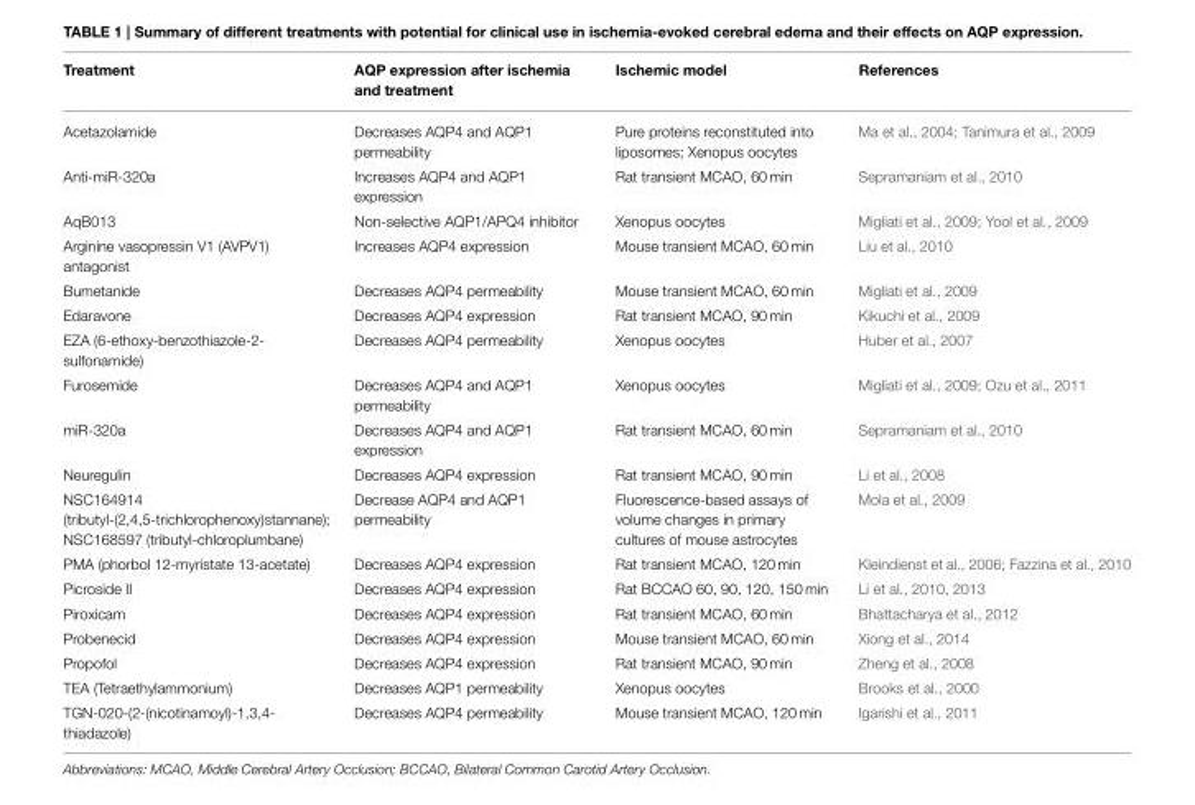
<table><thead><tr><td>Treatment</td><td>AQP expression after ischemia and treatment</td><td>Ischemic model</td><td>References</td></tr></thead><tbody><tr><td>Acetazolamide</td><td>Decreases AQP4 and AQP1 permeability</td><td>Pure proteins reconstituted into liposomes; Xenopus oocytes</td><td>Ma et al., 2004; Tanimura et al., 2009</td></tr><tr><td>Anti-miR-320a</td><td>Increases AQP4 and AQP1 expression</td><td>Rat transient MCAO, 60 min</td><td>Sepramaniam et al., 2010</td></tr><tr><td>AqB013</td><td>Non-selective AQP1/APQ4 inhibitor</td><td>Xenopus oocytes</td><td>Migliati et al., 2009; Yool et al., 2009</td></tr><tr><td>Arginine vasopressin V1 (AVPV1) antagonist</td><td>Increases AQP4 expression</td><td>Mouse transient MCAO, 60 min</td><td>Liu et al., 2010</td></tr><tr><td>Bumetanide</td><td>Decreases AQP4 permeability</td><td>Mouse transient MCAO, 60 min</td><td>Migliati et al., 2009</td></tr><tr><td>Edaravone</td><td>Decreases AQP4 expression</td><td>Rat transient MCAO, 90 min</td><td>Kikuchi et al., 2009</td></tr><tr><td>EZA (6-ethoxy-benzothiazole-2- sulfonamide)</td><td>Decreases AQP4 permeability</td><td>Xenopus oocytes</td><td>Huber et al., 2007</td></tr><tr><td>Furosemide</td><td>Decreases AQP4 and AQP1 permeability</td><td>Xenopus oocytes</td><td>Migliati et al., 2009; Ozu et al., 2011</td></tr><tr><td>miR-320a</td><td>Decreases AQP4 and AQP1 expression</td><td>Rat transient MCAO, 60 min</td><td>Sepramaniam et al., 2010</td></tr><tr><td>Neuregulin</td><td>Decreases AQP4 expression</td><td>Rat transient MCAO, 90 min</td><td>Li et al., 2008</td></tr><tr><td>NSC164914 (tributyl-(2,4,5-trichlorophenoxy)stannane); NSC168597 (tributyl-chloroplumbane)</td><td>Decrease AQP4 and AQP1 permeability</td><td>Fluorescence-based assays of volume changes in primary cultures of mouse astrocytes</td><td>Mola et al., 2009</td></tr><tr><td>PMA (phorbol 12-myristate 13-acetate)</td><td>Decreases AQP4 expression</td><td>Rat transient MCAO, 120 min</td><td>Kleindienst et al., 2006; Fazzina et al., 2010</td></tr><tr><td>Picroside II</td><td>Decreases AQP4 expression</td><td>Rat BCCAO 60, 90, 120, 150 min</td><td>Li et al., 2010, 2013</td></tr><tr><td>Piroxicam</td><td>Decreases AQP4 expression</td><td>Rat transient MCAO, 60 min</td><td>Bhattacharya et al., 2012</td></tr><tr><td>Probenecid</td><td>Decreases AQP4 expression</td><td>Mouse transient MCAO, 60 min</td><td>Xiong et al., 2014</td></tr><tr><td>Propofol</td><td>Decreases AQP4 expression</td><td>Rat transient MCAO, 90 min</td><td>Zheng et al., 2008</td></tr><tr><td>TEA (Tetraethylammonium)</td><td>Decreases AQP1 permeability</td><td>Xenopus oocytes</td><td>Brooks et al., 2000</td></tr><tr><td>TGN-020-(2-(nicotinamoyl)-1,3,4- thiadazole)</td><td>Decreases AQP4 permeability</td><td>Mouse transient MCAO, 120 min</td><td>Igarishi et al., 2011</td></tr></tbody></table>